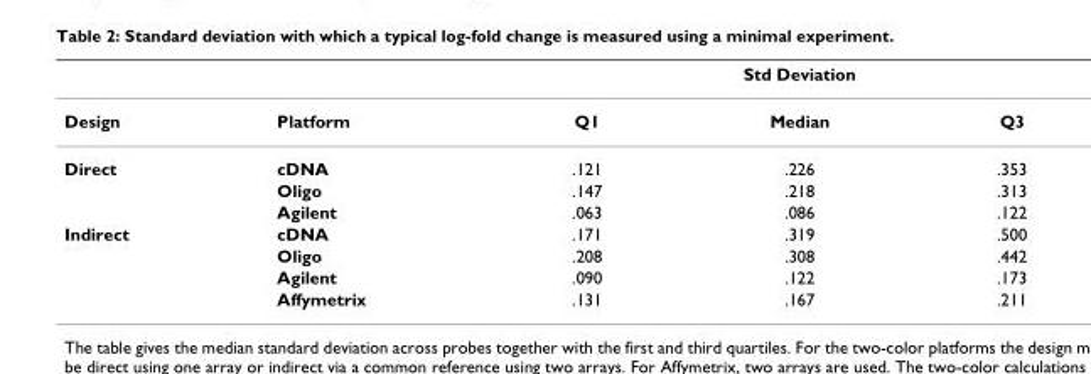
<table><thead><tr><td rowspan="2">Design</td><td rowspan="2">Platform</td><td colspan="3">Std Deviation</td></tr><tr><td>Q1</td><td>Median</td><td>Q3</td></tr></thead><tbody><tr><td rowspan="3">Direct</td><td>cDNA</td><td>.121</td><td>.226</td><td>.353</td></tr><tr><td>Oligo</td><td>.147</td><td>.218</td><td>.313</td></tr><tr><td>Agilent</td><td>.063</td><td>.086</td><td>.122</td></tr><tr><td rowspan="4">Indirect</td><td>cDNA</td><td>.171</td><td>.319</td><td>.500</td></tr><tr><td>Oligo</td><td>.208</td><td>.308</td><td>.442</td></tr><tr><td>Agilent</td><td>.090</td><td>.122</td><td>.173</td></tr><tr><td>Affymetrix</td><td>.131</td><td>.167</td><td>.211</td></tr></tbody></table>